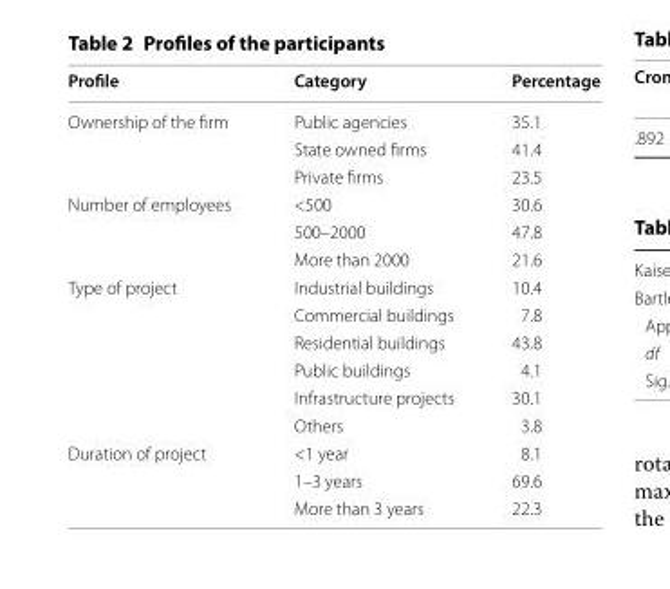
<table><thead><tr><td>Profile</td><td>Category</td><td>Percentage</td></tr></thead><tbody><tr><td rowspan="3">Ownership of the firm</td><td>Public agencies</td><td>35.1</td></tr><tr><td>State owned firms</td><td>41.4</td></tr><tr><td>Private firms</td><td>23.5</td></tr><tr><td rowspan="3">Number of employees</td><td>&lt;500</td><td>30.6</td></tr><tr><td>500–2000</td><td>47.8</td></tr><tr><td>More than 2000</td><td>21.6</td></tr><tr><td rowspan="6">Type of project</td><td>Industrial buildings</td><td>10.4</td></tr><tr><td>Commercial buildings</td><td>7.8</td></tr><tr><td>Residential buildings</td><td>43.8</td></tr><tr><td>Public buildings</td><td>4.1</td></tr><tr><td>Infrastructure projects</td><td>30.1</td></tr><tr><td>Others</td><td>3.8</td></tr><tr><td rowspan="3">Duration of project</td><td>&lt;1 year</td><td>8.1</td></tr><tr><td>1–3 years</td><td>69.6</td></tr><tr><td>More than 3 years</td><td>22.3</td></tr></tbody></table>